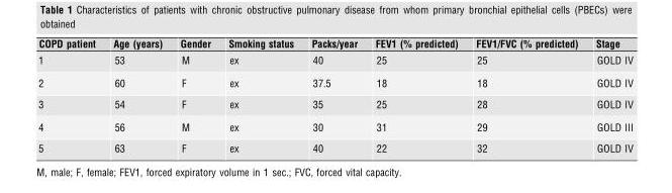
<table><thead><tr><td>COPD patient</td><td>Age (years)</td><td>Gender</td><td>Smoking status</td><td>Packs/year</td><td>FEV1 (% predicted)</td><td>FEV1/FVC (% predicted)</td><td>Stage</td></tr></thead><tbody><tr><td>1</td><td>53</td><td>M</td><td>ex</td><td>40</td><td>25</td><td>25</td><td>GOLD IV</td></tr><tr><td>2</td><td>60</td><td>F</td><td>ex</td><td>37.5</td><td>18</td><td>18</td><td>GOLD IV</td></tr><tr><td>3</td><td>54</td><td>F</td><td>ex</td><td>35</td><td>25</td><td>28</td><td>GOLD IV</td></tr><tr><td>4</td><td>56</td><td>M</td><td>ex</td><td>30</td><td>31</td><td>29</td><td>GOLD III</td></tr><tr><td>5</td><td>63</td><td>F</td><td>ex</td><td>40</td><td>22</td><td>32</td><td>GOLD IV</td></tr></tbody></table>